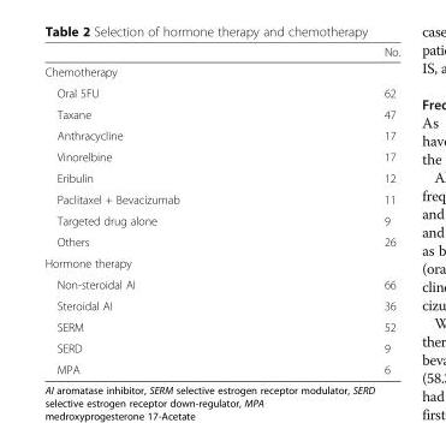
<table><thead><tr><td></td><td>No.</td></tr></thead><tbody><tr><td colspan="2">Chemotherapy</td></tr><tr><td>Oral 5FU</td><td>62</td></tr><tr><td>Taxane</td><td>47</td></tr><tr><td>Anthracycline</td><td>17</td></tr><tr><td>Vinorelbine</td><td>17</td></tr><tr><td>Eribulin</td><td>12</td></tr><tr><td>Paclitaxel + Bevacizumab</td><td>11</td></tr><tr><td>Targeted drug alone</td><td>9</td></tr><tr><td>Others</td><td>26</td></tr><tr><td colspan="2">Hormone therapy</td></tr><tr><td>Non-steroidal AI</td><td>66</td></tr><tr><td>Steroidal AI</td><td>36</td></tr><tr><td>SERM</td><td>52</td></tr><tr><td>SERD</td><td>9</td></tr><tr><td>MPA</td><td>6</td></tr></tbody></table>